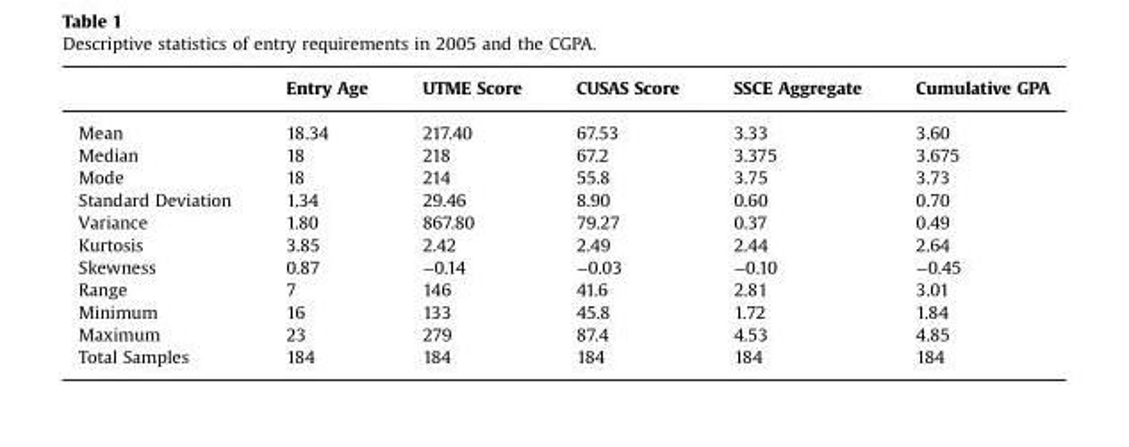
<table><thead><tr><td></td><td>Entry Age</td><td>UTME Score</td><td>CUSAS Score</td><td>SSCE Aggregate</td><td>Cumulative GPA</td></tr></thead><tbody><tr><td>Mean</td><td>18.34</td><td>217.40</td><td>67.53</td><td>3.33</td><td>3.60</td></tr><tr><td>Median</td><td>18</td><td>218</td><td>67.2</td><td>3.375</td><td>3.675</td></tr><tr><td>Mode</td><td>18</td><td>214</td><td>55.8</td><td>3.75</td><td>3.73</td></tr><tr><td>Standard Deviation</td><td>1.34</td><td>29.46</td><td>8.90</td><td>0.60</td><td>0.70</td></tr><tr><td>Variance</td><td>1.80</td><td>867.80</td><td>79.27</td><td>0.37</td><td>0.49</td></tr><tr><td>Kurtosis</td><td>3.85</td><td>2.42</td><td>2.49</td><td>2.44</td><td>2.64</td></tr><tr><td>Skewness</td><td>0.87</td><td>−0.14</td><td>−0.03</td><td>−0.10</td><td>−0.45</td></tr><tr><td>Range</td><td>7</td><td>146</td><td>41.6</td><td>2.81</td><td>3.01</td></tr><tr><td>Minimum</td><td>16</td><td>133</td><td>45.8</td><td>1.72</td><td>1.84</td></tr><tr><td>Maximum</td><td>23</td><td>279</td><td>87.4</td><td>4.53</td><td>4.85</td></tr><tr><td>Total Samples</td><td>184</td><td>184</td><td>184</td><td>184</td><td>184</td></tr></tbody></table>